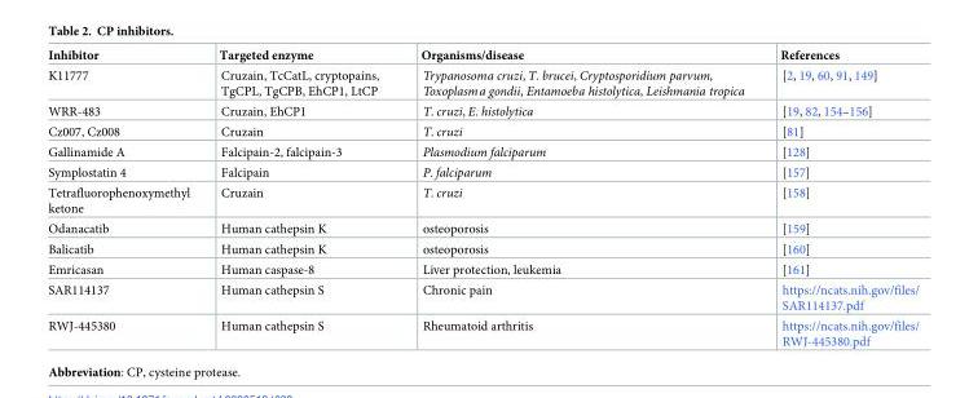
<table><thead><tr><td>Inhibitor</td><td>Targeted enzyme</td><td>Organisms/disease</td><td>References</td></tr></thead><tbody><tr><td>K11777</td><td>Cruzain, TcCatL, cryptopains, TgCPL, TgCPB, EhCP1, LtCP</td><td>Trypanosoma cruzi, T. brucei, Cryptosporidium parvum, Toxoplasma gondii, Entamoeba histolytica, Leishmania tropica</td><td>[2, 19, 60, 91, 149]</td></tr><tr><td>WRR-483</td><td>Cruzain, EhCP1</td><td>T. cruzi, E. histolytica</td><td>[19, 82, 154–156]</td></tr><tr><td>Cz007, Cz008</td><td>Cruzain</td><td>T. cruzi</td><td>[81]</td></tr><tr><td>Gallinamide A</td><td>Falcipain-2, falcipain-3</td><td>Plasmodium falciparum</td><td>[128]</td></tr><tr><td>Symplostatin 4</td><td>Falcipain</td><td>P. falciparum</td><td>[157]</td></tr><tr><td>Tetrafluorophenoxymethyl ketone</td><td>Cruzain</td><td>T. cruzi</td><td>[158]</td></tr><tr><td>Odanacatib</td><td>Human cathepsin K</td><td>osteoporosis</td><td>[159]</td></tr><tr><td>Balicatib</td><td>Human cathepsin K</td><td>osteoporosis</td><td>[160]</td></tr><tr><td>Emricasan</td><td>Human caspase-8</td><td>Liver protection, leukemia</td><td>[161]</td></tr><tr><td>SAR114137</td><td>Human cathepsin S</td><td>Chronic pain</td><td>https://ncats.nih.gov/files/ SAR114137.pdf</td></tr><tr><td>RWJ-445380</td><td>Human cathepsin S</td><td>Rheumatoid arthritis</td><td>https://ncats.nih.gov/files/ RWJ-445380.pdf</td></tr></tbody></table>